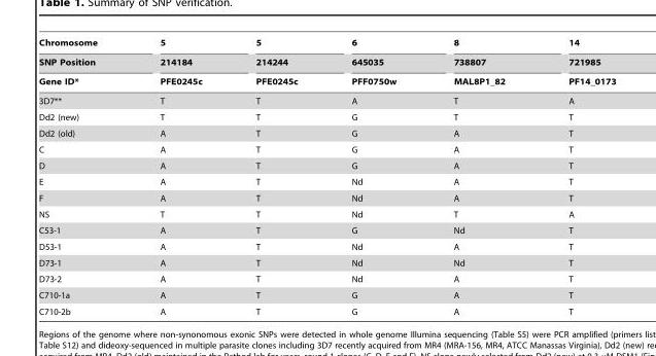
<table><thead><tr><td rowspan="3">Chromosome SNP Position Gene ID*</td><td rowspan="3">5 214184 PFE0245c</td><td rowspan="3">5 214244 PFE0245c</td><td rowspan="3">6 645035 PFF0750w</td><td rowspan="3">8 738807 MAL8P1_82</td><td rowspan="3">14 721985 PF14_0173</td></tr><tr></tr><tr></tr></thead><tbody><tr><td>3D7**</td><td>T</td><td>T</td><td>A</td><td>T</td><td>A</td></tr><tr><td>Dd2 (new)</td><td>T</td><td>T</td><td>G</td><td>T</td><td>T</td></tr><tr><td>Dd2 (old)</td><td>A</td><td>T</td><td>G</td><td>A</td><td>T</td></tr><tr><td>C</td><td>A</td><td>T</td><td>G</td><td>A</td><td>T</td></tr><tr><td>D</td><td>A</td><td>T</td><td>G</td><td>A</td><td>T</td></tr><tr><td>E</td><td>A</td><td>T</td><td>Nd</td><td>A</td><td>T</td></tr><tr><td>F</td><td>A</td><td>T</td><td>Nd</td><td>A</td><td>T</td></tr><tr><td>NS</td><td>T</td><td>T</td><td>Nd</td><td>T</td><td>A</td></tr><tr><td>C53-1</td><td>A</td><td>T</td><td>G</td><td>Nd</td><td>T</td></tr><tr><td>D53-1</td><td>A</td><td>T</td><td>Nd</td><td>A</td><td>T</td></tr><tr><td>D73-1</td><td>A</td><td>T</td><td>Nd</td><td>Nd</td><td>T</td></tr><tr><td>D73-2</td><td>A</td><td>T</td><td>Nd</td><td>A</td><td>T</td></tr><tr><td>C710-1a</td><td>A</td><td>T</td><td>G</td><td>A</td><td>T</td></tr><tr><td>C710-2b</td><td>A</td><td>T</td><td>G</td><td>A</td><td>T</td></tr></tbody></table>